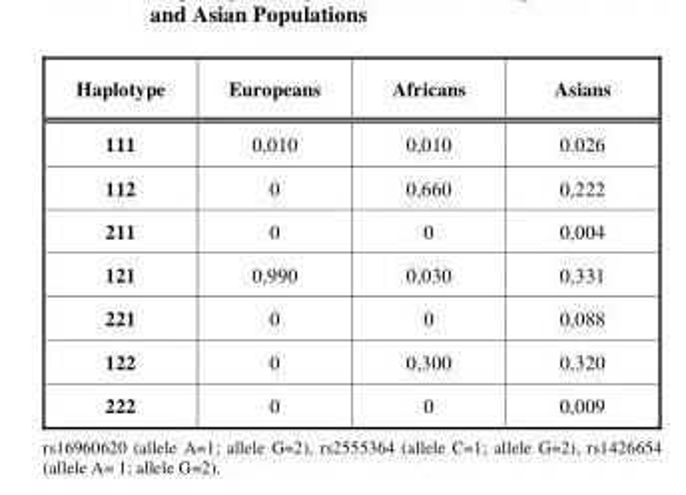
<table><thead><tr><td>Haplotype</td><td>Europeans</td><td>Africans</td><td>Asians</td></tr></thead><tbody><tr><td>111</td><td>0,010</td><td>0,010</td><td>0.026</td></tr><tr><td>112</td><td>0</td><td>0,660</td><td>0,222</td></tr><tr><td>211</td><td>0</td><td>0</td><td>0,004</td></tr><tr><td>121</td><td>0,990</td><td>0,030</td><td>0,331</td></tr><tr><td>221</td><td>0</td><td>0</td><td>0,088</td></tr><tr><td>122</td><td>0</td><td>0,300</td><td>0,320</td></tr><tr><td>222</td><td>0</td><td>0</td><td>0,009</td></tr></tbody></table>